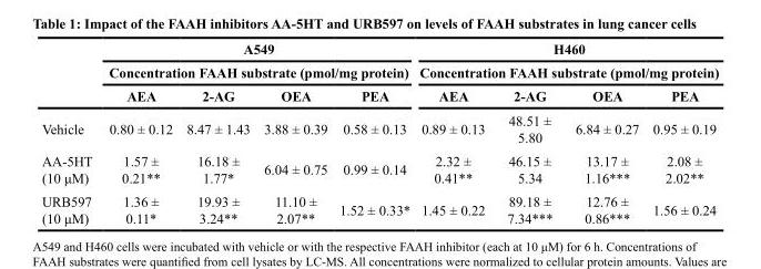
<table><thead><tr><td rowspan="3"></td><td rowspan="2" colspan="4">A549 Concentration FAAH substrate (pmol/mg protein)</td><td rowspan="2" colspan="4">H460 Concentration FAAH substrate (pmol/mg protein)</td></tr><tr></tr><tr><td>AEA</td><td>2-AG</td><td>OEA</td><td>PEA</td><td>AEA</td><td>2-AG</td><td>OEA</td><td>PEA</td></tr></thead><tbody><tr><td>Vehicle</td><td>0.80 ± 0.12</td><td>8.47 ± 1.43</td><td>3.88 ± 0.39</td><td>0.58 ± 0.13</td><td>0.89 ± 0.13</td><td>48.51 ± 5.80</td><td>6.84 ± 0.27</td><td>0.95 ± 0.19</td></tr><tr><td>AA-5HT (10 μM)</td><td>1.57 ± 0.21**</td><td>16.18 ± 1.77*</td><td>6.04 ± 0.75</td><td>0.99 ± 0.14</td><td>2.32 ± 0.41**</td><td>46.15 ± 5.34</td><td>13.17 ± 1.16***</td><td>2.08 ± 2.02**</td></tr><tr><td>URB597 (10 μM)</td><td>1.36 ± 0.11*</td><td>19.93 ± 3.24**</td><td>11.10 ± 2.07**</td><td>1.52 ± 0.33*</td><td>1.45 ± 0.22</td><td>89.18 ± 7.34***</td><td>12.76 ± 0.86***</td><td>1.56 ± 0.24</td></tr></tbody></table>